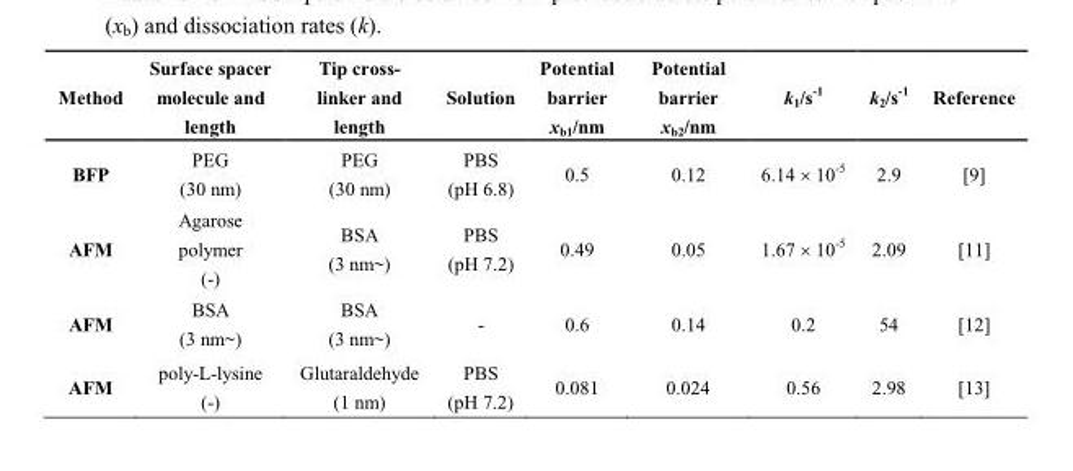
<table><thead><tr><td>Method</td><td>Surface spacer molecule and length</td><td>Tip cross- linker and length</td><td>Solution</td><td>Potential barrier x<sub>b1</sub>/nm</td><td>Potential barrier x<sub>b2</sub>/nm</td><td>k<sub>1</sub>/s<sup>-1</sup></td><td>k<sub>2</sub>/s<sup>-1</sup></td><td>Reference</td></tr></thead><tbody><tr><td>BFP</td><td>PEG (30 nm)</td><td>PEG (30 nm)</td><td>PBS (pH 6.8)</td><td>0.5</td><td>0.12</td><td>6.14 × 10<sup>-5</sup></td><td>2.9</td><td>[9]</td></tr><tr><td>AFM</td><td>Agarose polymer (-)</td><td>BSA (3 nm~)</td><td>PBS (pH 7.2)</td><td>0.49</td><td>0.05</td><td>1.67 × 10<sup>-5</sup></td><td>2.09</td><td>[11]</td></tr><tr><td>AFM</td><td>BSA (3 nm~)</td><td>BSA (3 nm~)</td><td>-</td><td>0.6</td><td>0.14</td><td>0.2</td><td>54</td><td>[12]</td></tr><tr><td>AFM</td><td>poly-L-lysine (-)</td><td>Glutaraldehyde (1 nm)</td><td>PBS (pH 7.2)</td><td>0.081</td><td>0.024</td><td>0.56</td><td>2.98</td><td>[13]</td></tr></tbody></table>